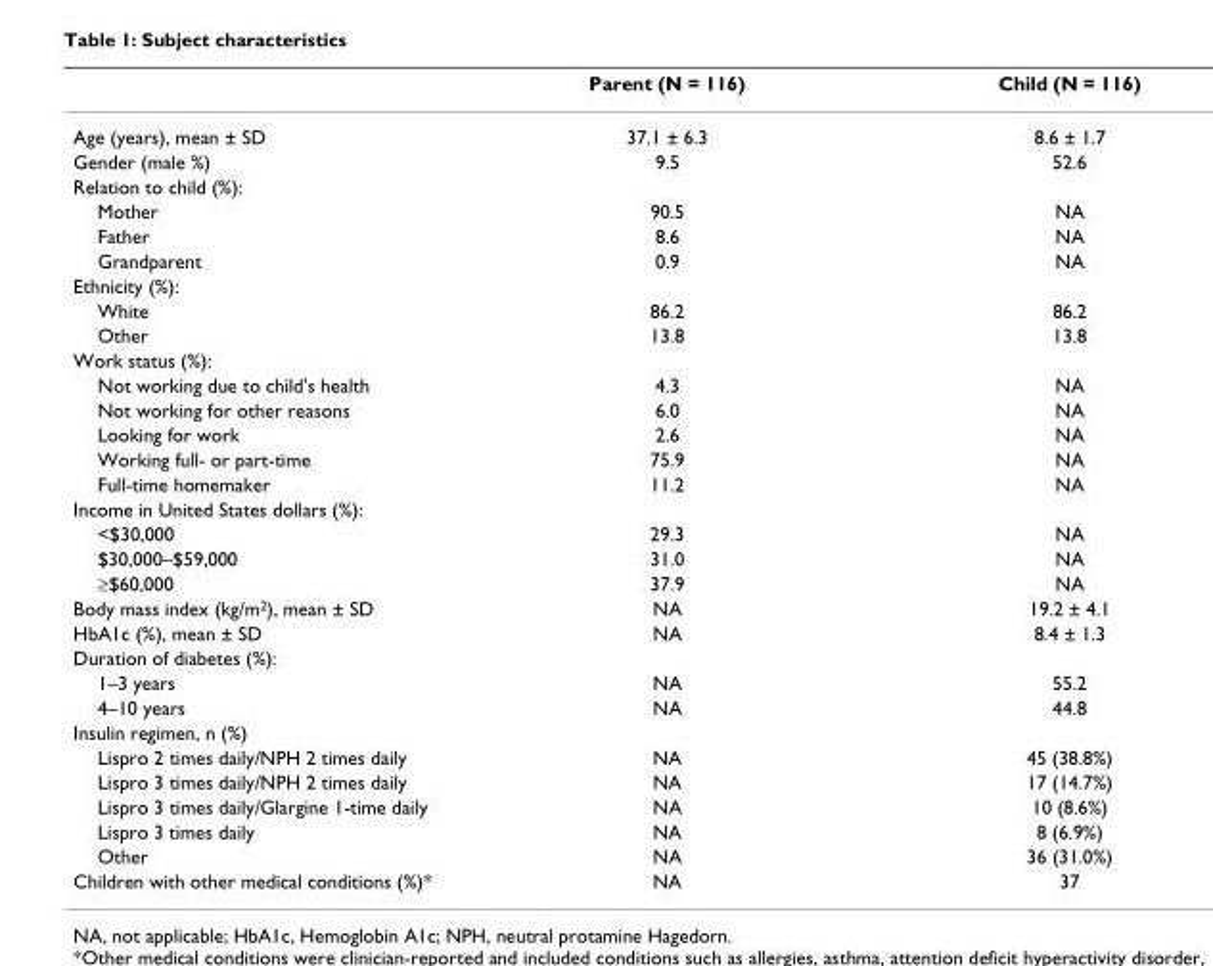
<table><thead><tr><td></td><td>Parent (N = 116)</td><td>Child (N = 116)</td></tr></thead><tbody><tr><td>Age (years), mean ± SD</td><td>37.1 ± 6.3</td><td>8.6 ± 1.7</td></tr><tr><td>Gender (male %)</td><td>9.5</td><td>52.6</td></tr><tr><td colspan="3">Relation to child (%):</td></tr><tr><td>Mother</td><td>90.5</td><td>NA</td></tr><tr><td>Father</td><td>8.6</td><td>NA</td></tr><tr><td>Grandparent</td><td>0.9</td><td>NA</td></tr><tr><td colspan="3">Ethnicity (%):</td></tr><tr><td>White</td><td>86.2</td><td>86.2</td></tr><tr><td>Other</td><td>13.8</td><td>13.8</td></tr><tr><td colspan="3">Work status (%):</td></tr><tr><td>Not working due to child&#x27;s health</td><td>4.3</td><td>NA</td></tr><tr><td>Not working for other reasons</td><td>6.0</td><td>NA</td></tr><tr><td>Looking for work</td><td>2.6</td><td>NA</td></tr><tr><td>Working full- or part-time</td><td>75.9</td><td>NA</td></tr><tr><td>Full-time homemaker</td><td>11.2</td><td>NA</td></tr><tr><td colspan="3">Income in United States dollars (%):</td></tr><tr><td>&lt;$30,000</td><td>29.3</td><td>NA</td></tr><tr><td>$30,000–$59,000</td><td>31.0</td><td>NA</td></tr><tr><td>≥$60,000</td><td>37.9</td><td>NA</td></tr><tr><td>Body mass index (kg/m<sup>2</sup>), mean ± SD</td><td>NA</td><td>19.2 ± 4.1</td></tr><tr><td>HbA1c (%), mean ± SD</td><td>NA</td><td>8.4 ± 1.3</td></tr><tr><td colspan="3">Duration of diabetes (%):</td></tr><tr><td>1–3 years</td><td>NA</td><td>55.2</td></tr><tr><td>4–10 years</td><td>NA</td><td>44.8</td></tr><tr><td colspan="3">Insulin regimen, n (%)</td></tr><tr><td>Lispro 2 times daily/NPH 2 times daily</td><td>NA</td><td>45 (38.8%)</td></tr><tr><td>Lispro 3 times daily/NPH 2 times daily</td><td>NA</td><td>17 (14.7%)</td></tr><tr><td>Lispro 3 times daily/Glargine 1-time daily</td><td>NA</td><td>10 (8.6%)</td></tr><tr><td>Lispro 3 times daily</td><td>NA</td><td>8 (6.9%)</td></tr><tr><td>Other</td><td>NA</td><td>36 (31.0%)</td></tr><tr><td>Children with other medical conditions (%)*</td><td>NA</td><td>37</td></tr></tbody></table>